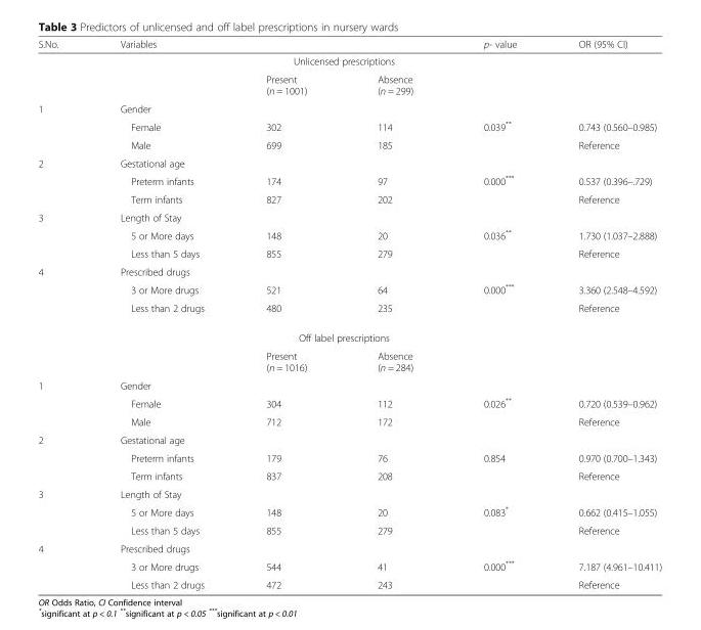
<table><thead><tr><td>S.No.</td><td>Variables</td><td></td><td></td><td>p- value</td><td>OR (95% CI)</td></tr></thead><tbody><tr><td></td><td></td><td colspan="2">Unlicensed prescriptions</td><td></td><td></td></tr><tr><td></td><td></td><td>Present (n = 1001)</td><td>Absence (n = 299)</td><td></td><td></td></tr><tr><td rowspan="3">1</td><td colspan="5">Gender</td></tr><tr><td>Female</td><td>302</td><td>114</td><td rowspan="2">0.039**</td><td>0.743 (0.560–0.985)</td></tr><tr><td>Male</td><td>699</td><td>185</td><td>Reference</td></tr><tr><td rowspan="3">2</td><td colspan="5">Gestational age</td></tr><tr><td>Preterm infants</td><td>174</td><td>97</td><td rowspan="2">0.000***</td><td>0.537 (0.396–.729)</td></tr><tr><td>Term infants</td><td>827</td><td>202</td><td>Reference</td></tr><tr><td rowspan="3">3</td><td colspan="5">Length of Stay</td></tr><tr><td>5 or More days</td><td>148</td><td>20</td><td rowspan="2">0.036**</td><td>1.730 (1.037–2.888)</td></tr><tr><td>Less than 5 days</td><td>855</td><td>279</td><td>Reference</td></tr><tr><td rowspan="5">4</td><td colspan="5">Prescribed drugs</td></tr><tr><td>3 or More drugs</td><td>521</td><td>64</td><td rowspan="2">0.000***</td><td>3.360 (2.548–4.592)</td></tr><tr><td>Less than 2 drugs</td><td>480</td><td>235</td><td>Reference</td></tr><tr><td rowspan="2"></td><td colspan="2">Off label prescriptions</td><td rowspan="2"></td><td rowspan="2"></td></tr><tr><td>Present (n = 1016)</td><td>Absence (n = 284)</td></tr><tr><td rowspan="3">1</td><td colspan="5">Gender</td></tr><tr><td>Female</td><td>304</td><td>112</td><td rowspan="2">0.026**</td><td>0.720 (0.539–0.962)</td></tr><tr><td>Male</td><td>712</td><td>172</td><td>Reference</td></tr><tr><td rowspan="3">2</td><td colspan="5">Gestational age</td></tr><tr><td>Preterm infants</td><td>179</td><td>76</td><td rowspan="2">0.854</td><td>0.970 (0.700–1.343)</td></tr><tr><td>Term infants</td><td>837</td><td>208</td><td>Reference</td></tr><tr><td rowspan="3">3</td><td colspan="5">Length of Stay</td></tr><tr><td>5 or More days</td><td>148</td><td>20</td><td rowspan="2">0.083*</td><td>0.662 (0.415–1.055)</td></tr><tr><td>Less than 5 days</td><td>855</td><td>279</td><td>Reference</td></tr><tr><td rowspan="3">4</td><td colspan="5">Prescribed drugs</td></tr><tr><td>3 or More drugs</td><td>544</td><td>41</td><td rowspan="2">0.000***</td><td>7.187 (4.961–10.411)</td></tr><tr><td>Less than 2 drugs</td><td>472</td><td>243</td><td>Reference</td></tr></tbody></table>